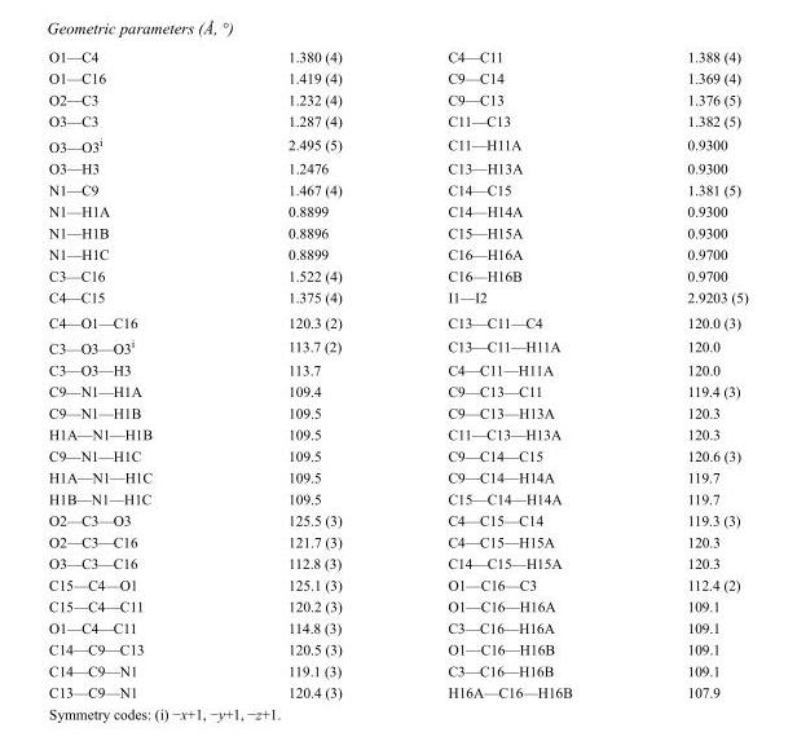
<table><tbody><tr><td>O1—C4</td><td>1.380 (4)</td><td>C4—C11</td><td>1.388 (4)</td></tr><tr><td>O1—C16</td><td>1.419 (4)</td><td>C9—C14</td><td>1.369 (4)</td></tr><tr><td>O2—C3</td><td>1.232 (4)</td><td>C9—C13</td><td>1.376 (5)</td></tr><tr><td>O3—C3</td><td>1.287 (4)</td><td>C11—C13</td><td>1.382 (5)</td></tr><tr><td>O3—O3<sup>i</sup></td><td>2.495 (5)</td><td>C11—H11A</td><td>0.9300</td></tr><tr><td>O3—H3</td><td>1.2476</td><td>C13—H13A</td><td>0.9300</td></tr><tr><td>N1—C9</td><td>1.467 (4)</td><td>C14—C15</td><td>1.381 (5)</td></tr><tr><td>N1—H1A</td><td>0.8899</td><td>C14—H14A</td><td>0.9300</td></tr><tr><td>N1—H1B</td><td>0.8896</td><td>C15—H15A</td><td>0.9300</td></tr><tr><td>N1—H1C</td><td>0.8899</td><td>C16—H16A</td><td>0.9700</td></tr><tr><td>C3—C16</td><td>1.522 (4)</td><td>C16—H16B</td><td>0.9700</td></tr><tr><td>C4—C15</td><td>1.375 (4)</td><td>I1—I2</td><td>2.9203 (5)</td></tr><tr><td>C4—O1—C16</td><td>120.3 (2)</td><td>C13—C11—C4</td><td>120.0 (3)</td></tr><tr><td>C3—O3—O3<sup>i</sup></td><td>113.7 (2)</td><td>C13—C11—H11A</td><td>120.0</td></tr><tr><td>C3—O3—H3</td><td>113.7</td><td>C4—C11—H11A</td><td>120.0</td></tr><tr><td>C9—N1—H1A</td><td>109.4</td><td>C9—C13—C11</td><td>119.4 (3)</td></tr><tr><td>C9—N1—H1B</td><td>109.5</td><td>C9—C13—H13A</td><td>120.3</td></tr><tr><td>H1A—N1—H1B</td><td>109.5</td><td>C11—C13—H13A</td><td>120.3</td></tr><tr><td>C9—N1—H1C</td><td>109.5</td><td>C9—C14—C15</td><td>120.6 (3)</td></tr><tr><td>H1A—N1—H1C</td><td>109.5</td><td>C9—C14—H14A</td><td>119.7</td></tr><tr><td>H1B—N1—H1C</td><td>109.5</td><td>C15—C14—H14A</td><td>119.7</td></tr><tr><td>O2—C3—O3</td><td>125.5 (3)</td><td>C4—C15—C14</td><td>119.3 (3)</td></tr><tr><td>O2—C3—C16</td><td>121.7 (3)</td><td>C4—C15—H15A</td><td>120.3</td></tr><tr><td>O3—C3—C16</td><td>112.8 (3)</td><td>C14—C15—H15A</td><td>120.3</td></tr><tr><td>C15—C4—O1</td><td>125.1 (3)</td><td>O1—C16—C3</td><td>112.4 (2)</td></tr><tr><td>C15—C4—C11</td><td>120.2 (3)</td><td>O1—C16—H16A</td><td>109.1</td></tr><tr><td>O1—C4—C11</td><td>114.8 (3)</td><td>C3—C16—H16A</td><td>109.1</td></tr><tr><td>C14—C9—C13</td><td>120.5 (3)</td><td>O1—C16—H16B</td><td>109.1</td></tr><tr><td>C14—C9—N1</td><td>119.1 (3)</td><td>C3—C16—H16B</td><td>109.1</td></tr><tr><td>C13—C9—N1</td><td>120.4 (3)</td><td>H16A—C16—H16B</td><td>107.9</td></tr></tbody></table>